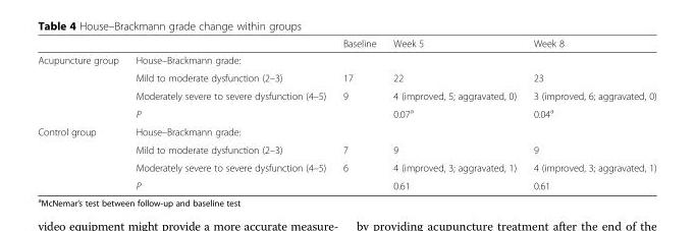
<table><thead><tr><td></td><td></td><td>Baseline</td><td>Week 5</td><td>Week 8</td></tr></thead><tbody><tr><td rowspan="4">Acupuncture group</td><td>House–Brackmann grade:</td><td></td><td></td><td></td></tr><tr><td>Mild to moderate dysfunction (2–3)</td><td>17</td><td>22</td><td>23</td></tr><tr><td>Moderately severe to severe dysfunction (4–5)</td><td>9</td><td>4 (improved, 5; aggravated, 0)</td><td>3 (improved, 6; aggravated, 0)</td></tr><tr><td>P</td><td></td><td>0.07<sup>a</sup></td><td>0.04<sup>a</sup></td></tr><tr><td rowspan="4">Control group</td><td>House–Brackmann grade:</td><td></td><td></td><td></td></tr><tr><td>Mild to moderate dysfunction (2–3)</td><td>7</td><td>9</td><td>9</td></tr><tr><td>Moderately severe to severe dysfunction (4–5)</td><td>6</td><td>4 (improved, 3; aggravated, 1)</td><td>4 (improved, 3; aggravated, 1)</td></tr><tr><td>P</td><td></td><td>0.61</td><td>0.61</td></tr></tbody></table>